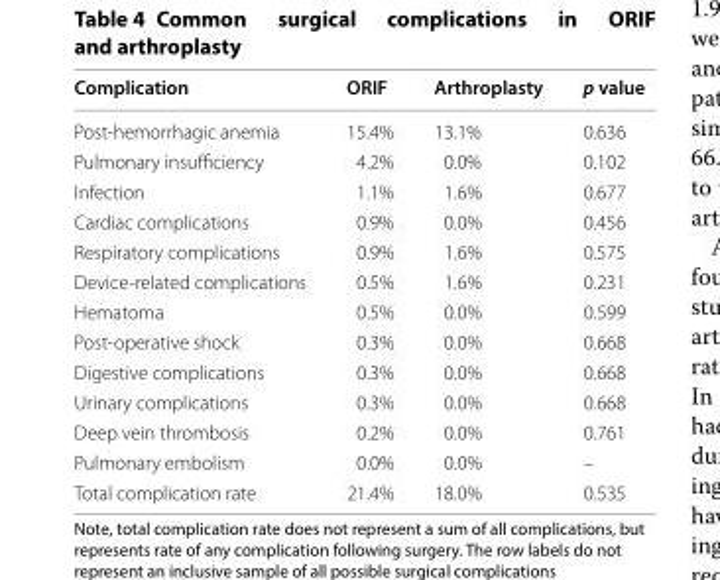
<table><thead><tr><td>Complication</td><td>ORIF</td><td>Arthroplasty</td><td>p value</td></tr></thead><tbody><tr><td>Post-hemorrhagic anemia</td><td>15.4%</td><td>13.1%</td><td>0.636</td></tr><tr><td>Pulmonary insufficiency</td><td>4.2%</td><td>0.0%</td><td>0.102</td></tr><tr><td>Infection</td><td>1.1%</td><td>1.6%</td><td>0.677</td></tr><tr><td>Cardiac complications</td><td>0.9%</td><td>0.0%</td><td>0.456</td></tr><tr><td>Respiratory complications</td><td>0.9%</td><td>1.6%</td><td>0.575</td></tr><tr><td>Device-related complications</td><td>0.5%</td><td>1.6%</td><td>0.231</td></tr><tr><td>Hematoma</td><td>0.5%</td><td>0.0%</td><td>0.599</td></tr><tr><td>Post-operative shock</td><td>0.3%</td><td>0.0%</td><td>0.668</td></tr><tr><td>Digestive complications</td><td>0.3%</td><td>0.0%</td><td>0.668</td></tr><tr><td>Urinary complications</td><td>0.3%</td><td>0.0%</td><td>0.668</td></tr><tr><td>Deep vein thrombosis</td><td>0.2%</td><td>0.0%</td><td>0.761</td></tr><tr><td>Pulmonary embolism</td><td>0.0%</td><td>0.0%</td><td>–</td></tr><tr><td>Total complication rate</td><td>21.4%</td><td>18.0%</td><td>0.535</td></tr></tbody></table>